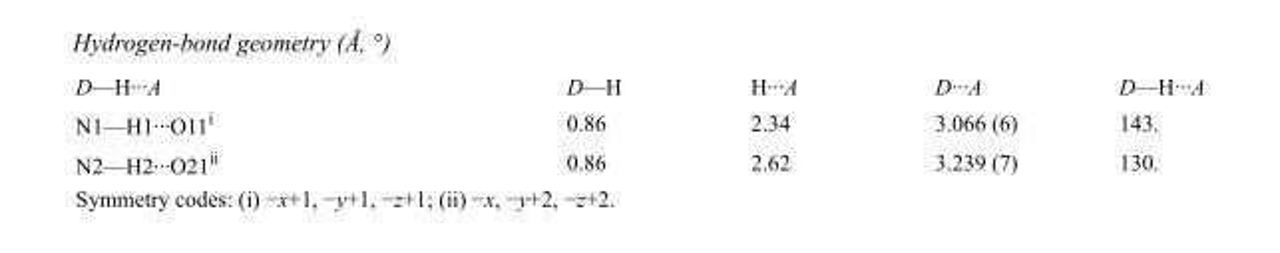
<table><tbody><tr><td>D—H···A</td><td>D—H</td><td>H···A</td><td>D···A</td><td>D—H···A</td></tr><tr><td>N1—H1···O11<sup>i</sup></td><td>0.86</td><td>2.34</td><td>3.066 (6)</td><td>143.</td></tr><tr><td>N2—H2···O21<sup>ii</sup></td><td>0.86</td><td>2.62</td><td>3.239 (7)</td><td>130.</td></tr></tbody></table>